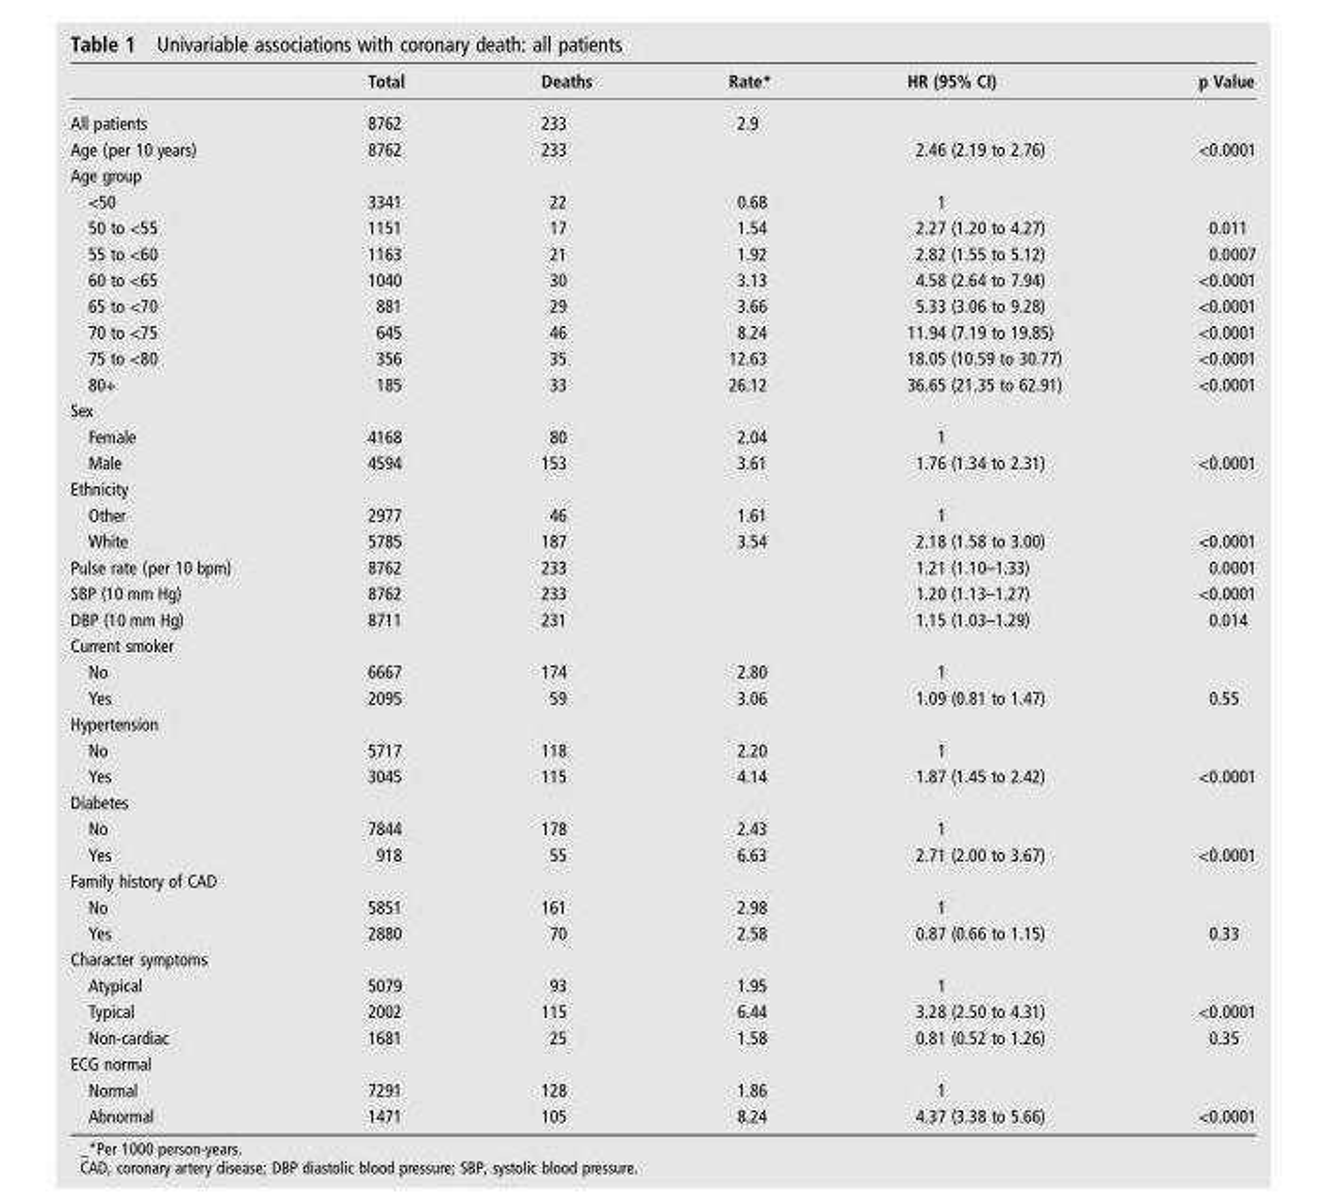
<table><thead><tr><td></td><td>Total</td><td>Deaths</td><td>Rate*</td><td>HR (95% CI)</td><td>p Value</td></tr></thead><tbody><tr><td>All patients</td><td>8762</td><td>233</td><td>2.9</td><td></td><td></td></tr><tr><td>Age (per 10 years)</td><td>8762</td><td>233</td><td></td><td>2.46 (2.19 to 2.76)</td><td>&lt;0.0001</td></tr><tr><td colspan="6">Age group</td></tr><tr><td>&lt;50</td><td>3341</td><td>22</td><td>0.68</td><td>1</td><td></td></tr><tr><td>50 to &lt;55</td><td>1151</td><td>17</td><td>1.54</td><td>2.27 (1.20 to 4.27)</td><td>0.011</td></tr><tr><td>55 to &lt;60</td><td>1163</td><td>21</td><td>1.92</td><td>2.82 (1.55 to 5.12)</td><td>0.0007</td></tr><tr><td>60 to &lt;65</td><td>1040</td><td>30</td><td>3.13</td><td>4.58 (2.64 to 7.94)</td><td>&lt;0.0001</td></tr><tr><td>65 to &lt;70</td><td>881</td><td>29</td><td>3.66</td><td>5.33 (3.06 to 9.28)</td><td>&lt;0.0001</td></tr><tr><td>70 to &lt;75</td><td>645</td><td>46</td><td>8.24</td><td>11.94 (7.19 to 19.85)</td><td>&lt;0.0001</td></tr><tr><td>75 to &lt;80</td><td>356</td><td>35</td><td>12.63</td><td>18.05 (10.59 to 30.77)</td><td>&lt;0.0001</td></tr><tr><td>80+</td><td>185</td><td>33</td><td>26.12</td><td>36.65 (21.35 to 62.91)</td><td>&lt;0.0001</td></tr><tr><td colspan="6">Sex</td></tr><tr><td>Female</td><td>4168</td><td>80</td><td>2.04</td><td>1</td><td></td></tr><tr><td>Male</td><td>4594</td><td>153</td><td>3.61</td><td>1.76 (1.34 to 2.31)</td><td>&lt;0.0001</td></tr><tr><td colspan="6">Ethnicity</td></tr><tr><td>Other</td><td>2977</td><td>46</td><td>1.61</td><td>1</td><td></td></tr><tr><td>White</td><td>5785</td><td>187</td><td>3.54</td><td>2.18 (1.58 to 3.00)</td><td>&lt;0.0001</td></tr><tr><td>Pulse rate (per 10 bpm)</td><td>8762</td><td>233</td><td></td><td>1.21 (1.10–1.33)</td><td>0.0001</td></tr><tr><td>SBP (10 mm Hg)</td><td>8762</td><td>233</td><td></td><td>1.20 (1.13–1.27)</td><td>&lt;0.0001</td></tr><tr><td>DBP (10 mm Hg)</td><td>8711</td><td>231</td><td></td><td>1.15 (1.03–1.29)</td><td>0.014</td></tr><tr><td colspan="6">Current smoker</td></tr><tr><td>No</td><td>6667</td><td>174</td><td>2.80</td><td>1</td><td></td></tr><tr><td>Yes</td><td>2095</td><td>59</td><td>3.06</td><td>1.09 (0.81 to 1.47)</td><td>0.55</td></tr><tr><td colspan="6">Hypertension</td></tr><tr><td>No</td><td>5717</td><td>118</td><td>2.20</td><td>1</td><td></td></tr><tr><td>Yes</td><td>3045</td><td>115</td><td>4.14</td><td>1.87 (1.45 to 2.42)</td><td>&lt;0.0001</td></tr><tr><td colspan="6">Diabetes</td></tr><tr><td>No</td><td>7844</td><td>178</td><td>2.43</td><td>1</td><td></td></tr><tr><td>Yes</td><td>918</td><td>55</td><td>6.63</td><td>2.71 (2.00 to 3.67)</td><td>&lt;0.0001</td></tr><tr><td colspan="6">Family history of CAD</td></tr><tr><td>No</td><td>5851</td><td>161</td><td>2.98</td><td>1</td><td></td></tr><tr><td>Yes</td><td>2880</td><td>70</td><td>2.58</td><td>0.87 (0.66 to 1.15)</td><td>0.33</td></tr><tr><td colspan="6">Character symptoms</td></tr><tr><td>Atypical</td><td>5079</td><td>93</td><td>1.95</td><td>1</td><td></td></tr><tr><td>Typical</td><td>2002</td><td>115</td><td>6.44</td><td>3.28 (2.50 to 4.31)</td><td>&lt;0.0001</td></tr><tr><td>Non-cardiac</td><td>1681</td><td>25</td><td>1.58</td><td>0.81 (0.52 to 1.26)</td><td>0.35</td></tr><tr><td colspan="6">ECG normal</td></tr><tr><td>Normal</td><td>7291</td><td>128</td><td>1.86</td><td>1</td><td></td></tr><tr><td>Abnormal</td><td>1471</td><td>105</td><td>8.24</td><td>4.37 (3.38 to 5.66)</td><td>&lt;0.0001</td></tr></tbody></table>